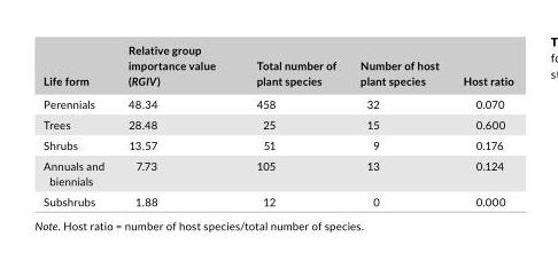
<table><thead><tr><td>Life form</td><td>Relative group importance value (RGIV)</td><td>Total number of plant species</td><td>Number of host plant species</td><td>Host ratio</td></tr></thead><tbody><tr><td>Perennials</td><td>48.34</td><td>458</td><td>32</td><td>0.070</td></tr><tr><td>Trees</td><td>28.48</td><td>25</td><td>15</td><td>0.600</td></tr><tr><td>Shrubs</td><td>13.57</td><td>51</td><td>9</td><td>0.176</td></tr><tr><td>Annuals and biennials</td><td>7.73</td><td>105</td><td>13</td><td>0.124</td></tr><tr><td>Subshrubs</td><td>1.88</td><td>12</td><td>0</td><td>0.000</td></tr></tbody></table>